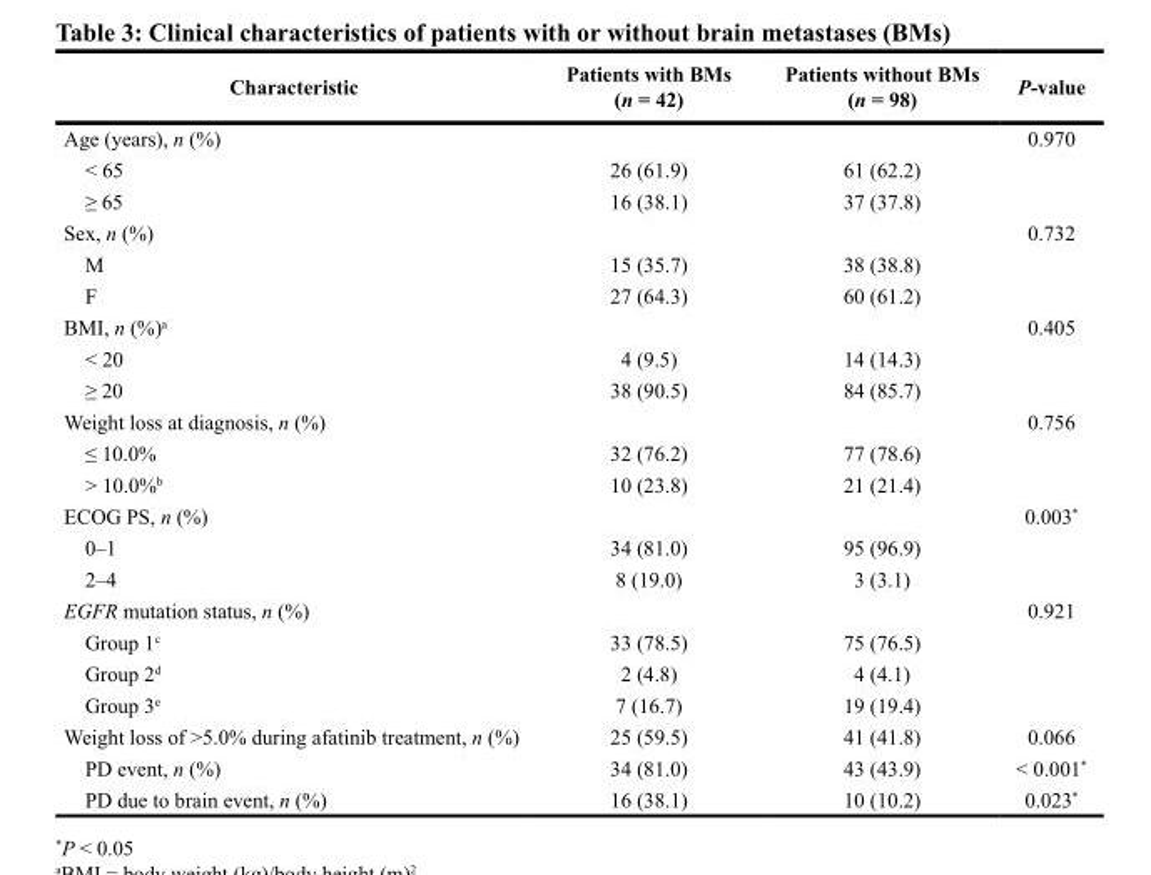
<table><thead><tr><td>Characteristic</td><td>Patients with BMs (n = 42)</td><td>Patients without BMs (n = 98)</td><td>P-value</td></tr></thead><tbody><tr><td>Age (years), n (%)</td><td></td><td></td><td>0.970</td></tr><tr><td>&lt; 65</td><td>26 (61.9)</td><td>61 (62.2)</td><td></td></tr><tr><td>≥ 65</td><td>16 (38.1)</td><td>37 (37.8)</td><td></td></tr><tr><td>Sex, n (%)</td><td></td><td></td><td>0.732</td></tr><tr><td>M</td><td>15 (35.7)</td><td>38 (38.8)</td><td></td></tr><tr><td>F</td><td>27 (64.3)</td><td>60 (61.2)</td><td></td></tr><tr><td>BMI, n (%)<sup>a</sup></td><td></td><td></td><td>0.405</td></tr><tr><td>&lt; 20</td><td>4 (9.5)</td><td>14 (14.3)</td><td></td></tr><tr><td>≥ 20</td><td>38 (90.5)</td><td>84 (85.7)</td><td></td></tr><tr><td>Weight loss at diagnosis, n (%)</td><td></td><td></td><td>0.756</td></tr><tr><td>≤ 10.0%</td><td>32 (76.2)</td><td>77 (78.6)</td><td></td></tr><tr><td>&gt; 10.0%<sup>b</sup></td><td>10 (23.8)</td><td>21 (21.4)</td><td></td></tr><tr><td>ECOG PS, n (%)</td><td></td><td></td><td>0.003*</td></tr><tr><td>0–1</td><td>34 (81.0)</td><td>95 (96.9)</td><td></td></tr><tr><td>2–4</td><td>8 (19.0)</td><td>3 (3.1)</td><td></td></tr><tr><td>EGFR mutation status, n (%)</td><td></td><td></td><td>0.921</td></tr><tr><td>Group 1<sup>c</sup></td><td>33 (78.5)</td><td>75 (76.5)</td><td></td></tr><tr><td>Group 2<sup>d</sup></td><td>2 (4.8)</td><td>4 (4.1)</td><td></td></tr><tr><td>Group 3<sup>e</sup></td><td>7 (16.7)</td><td>19 (19.4)</td><td></td></tr><tr><td>Weight loss of &gt;5.0% during afatinib treatment, n (%)</td><td>25 (59.5)</td><td>41 (41.8)</td><td>0.066</td></tr><tr><td>PD event, n (%)</td><td>34 (81.0)</td><td>43 (43.9)</td><td>&lt; 0.001*</td></tr><tr><td>PD due to brain event, n (%)</td><td>16 (38.1)</td><td>10 (10.2)</td><td>0.023*</td></tr></tbody></table>